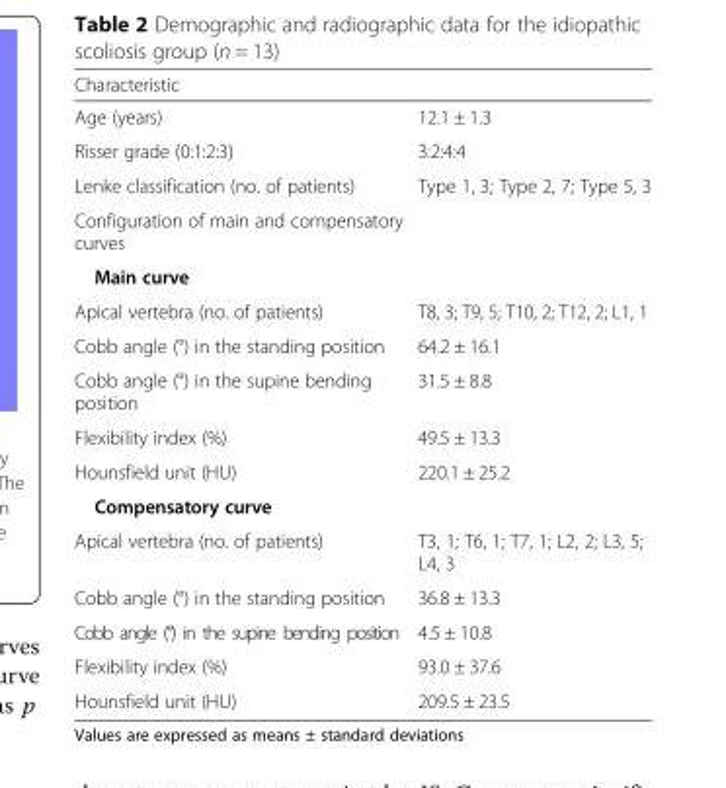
<table><thead><tr><td>Characteristic</td><td></td></tr></thead><tbody><tr><td>Age (years)</td><td>12.1 ± 1.3</td></tr><tr><td>Risser grade (0:1:2:3)</td><td>3:2:4:4</td></tr><tr><td>Lenke classification (no. of patients)</td><td>Type 1, 3; Type 2, 7; Type 5, 3</td></tr><tr><td colspan="2">Configuration of main and compensatory curves</td></tr><tr><td colspan="2">Main curve</td></tr><tr><td>Apical vertebra (no. of patients)</td><td>T8, 3; T9, 5; T10, 2; T12, 2; L1, 1</td></tr><tr><td>Cobb angle (°) in the standing position</td><td>64.2 ± 16.1</td></tr><tr><td>Cobb angle (°) in the supine bending position</td><td>31.5 ± 8.8</td></tr><tr><td>Flexibility index (%)</td><td>49.5 ± 13.3</td></tr><tr><td>Hounsfield unit (HU)</td><td>220.1 ± 25.2</td></tr><tr><td colspan="2">Compensatory curve</td></tr><tr><td>Apical vertebra (no. of patients)</td><td>T3, 1; T6, 1; T7, 1; L2, 2; L3, 5; L4, 3</td></tr><tr><td>Cobb angle (°) in the standing position</td><td>36.8 ± 13.3</td></tr><tr><td>Cobb angle (°) in the supine bending position</td><td>4.5 ± 10.8</td></tr><tr><td>Flexibility index (%)</td><td>93.0 ± 37.6</td></tr><tr><td>Hounsfield unit (HU)</td><td>209.5 ± 23.5</td></tr></tbody></table>